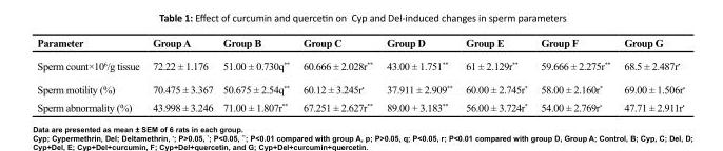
<table><thead><tr><td>Parameter</td><td>Group A</td><td>Group B</td><td>Group C</td><td>Group D</td><td>Group E</td><td>Group F</td><td>Group G</td></tr></thead><tbody><tr><td>Sperm count×10<sup>6</sup>/g tissue</td><td>72.22 ± 1.176</td><td>51.00 ± 0.730q**</td><td>60.666 ± 2.028r**</td><td>43.00 ± 1.751**</td><td>61 ± 2.129r**</td><td>59.666 ± 2.275r**</td><td>68.5 ± 2.487r<sup>•</sup></td></tr><tr><td>Sperm motility (%)</td><td>70.475 ± 3.367</td><td>50.675 ± 2.54q**</td><td>60.12 ± 3.245r<sup>•</sup></td><td>37.911 ± 2.909**</td><td>60.00 ± 2.745r*</td><td>58.00 ± 2.160r*</td><td>69.00 ± 1.506r<sup>•</sup></td></tr><tr><td>Sperm abnormality (%)</td><td>43.998 ± 3.246</td><td>71.00 ± 1.807r**</td><td>67.251 ± 2.627r**</td><td>89.00 + 3.183**</td><td>56.00 ± 3.724r*</td><td>54.00 ± 2.769r<sup>•</sup></td><td>47.71 ± 2.911r<sup>•</sup></td></tr></tbody></table>